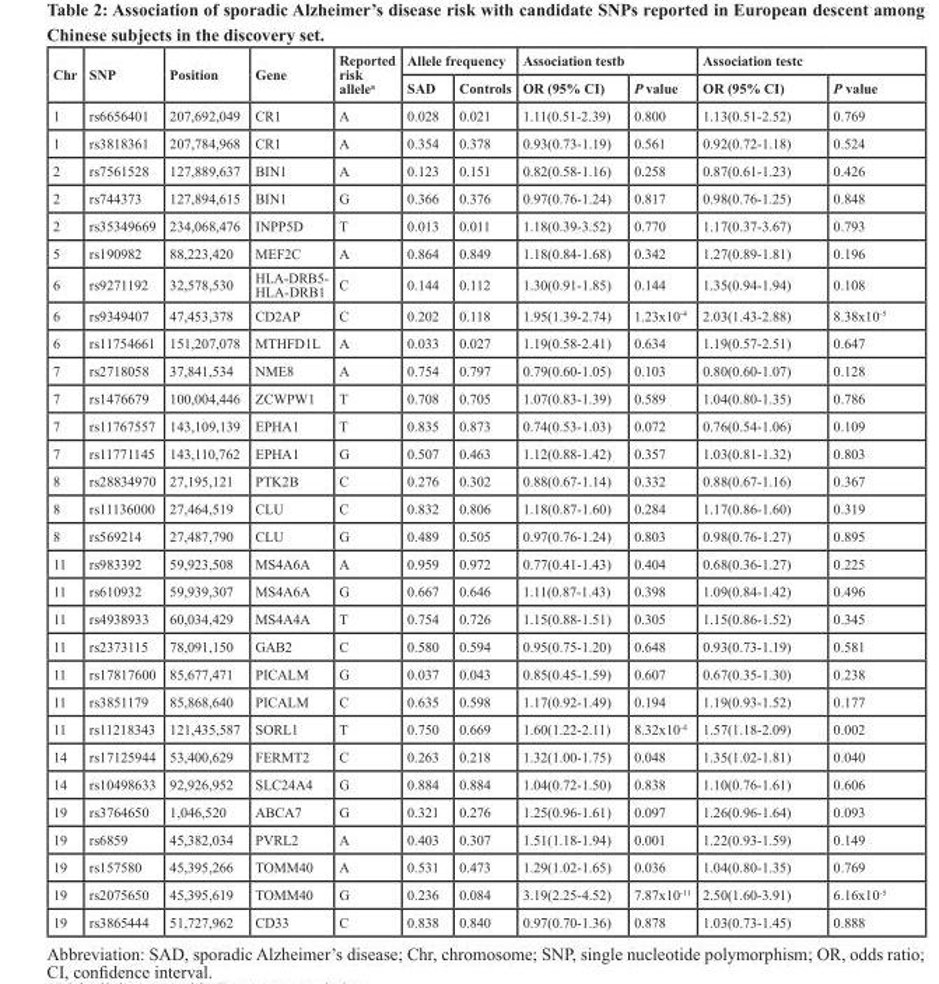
<table><thead><tr><td rowspan="2">Chr</td><td rowspan="2">SNP</td><td rowspan="2">Position</td><td rowspan="2">Gene</td><td rowspan="2">Reported risk allele<sup>a</sup></td><td colspan="2">Allele frequency</td><td colspan="2">Association test<sup>b</sup></td><td colspan="2">Association test<sup>c</sup></td></tr><tr><td>SAD</td><td>Controls</td><td>OR (95% CI)</td><td>P value</td><td>OR (95% CI)</td><td>P value</td></tr></thead><tbody><tr><td>1</td><td>rs6656401</td><td>207,692,049</td><td>CR1</td><td>A</td><td>0.028</td><td>0.021</td><td>1.11(0.51-2.39)</td><td>0.800</td><td>1.13(0.51-2.52)</td><td>0.769</td></tr><tr><td>1</td><td>rs3818361</td><td>207,784,968</td><td>CR1</td><td>A</td><td>0.354</td><td>0.378</td><td>0.93(0.73-1.19)</td><td>0.561</td><td>0.92(0.72-1.18)</td><td>0.524</td></tr><tr><td>2</td><td>rs7561528</td><td>127,889,637</td><td>BIN1</td><td>A</td><td>0.123</td><td>0.151</td><td>0.82(0.58-1.16)</td><td>0.258</td><td>0.87(0.61-1.23)</td><td>0.426</td></tr><tr><td>2</td><td>rs744373</td><td>127,894,615</td><td>BIN1</td><td>G</td><td>0.366</td><td>0.376</td><td>0.97(0.76-1.24)</td><td>0.817</td><td>0.98(0.76-1.25)</td><td>0.848</td></tr><tr><td>2</td><td>rs35349669</td><td>234,068,476</td><td>INPP5D</td><td>T</td><td>0.013</td><td>0.011</td><td>1.18(0.39-3.52)</td><td>0.770</td><td>1.17(0.37-3.67)</td><td>0.793</td></tr><tr><td>5</td><td>rs190982</td><td>88,223,420</td><td>MEF2C</td><td>A</td><td>0.864</td><td>0.849</td><td>1.18(0.84-1.68)</td><td>0.342</td><td>1.27(0.89-1.81)</td><td>0.196</td></tr><tr><td>6</td><td>rs9271192</td><td>32,578,530</td><td>HLA-DRB5- HLA-DRB1</td><td>C</td><td>0.144</td><td>0.112</td><td>1.30(0.91-1.85)</td><td>0.144</td><td>1.35(0.94-1.94)</td><td>0.108</td></tr><tr><td>6</td><td>rs9349407</td><td>47,453,378</td><td>CD2AP</td><td>C</td><td>0.202</td><td>0.118</td><td>1.95(1.39-2.74)</td><td>1.23x10-4</td><td>2.03(1.43-2.88)</td><td>8.38x10-5</td></tr><tr><td>6</td><td>rs11754661</td><td>151,207,078</td><td>MTHFD1L</td><td>A</td><td>0.033</td><td>0.027</td><td>1.19(0.58-2.41)</td><td>0.634</td><td>1.19(0.57-2.51)</td><td>0.647</td></tr><tr><td>7</td><td>rs2718058</td><td>37,841,534</td><td>NME8</td><td>A</td><td>0.754</td><td>0.797</td><td>0.79(0.60-1.05)</td><td>0.103</td><td>0.80(0.60-1.07)</td><td>0.128</td></tr><tr><td>7</td><td>rs1476679</td><td>100,004,446</td><td>ZCWPW1</td><td>T</td><td>0.708</td><td>0.705</td><td>1.07(0.83-1.39)</td><td>0.589</td><td>1.04(0.80-1.35)</td><td>0.786</td></tr><tr><td>7</td><td>rs11767557</td><td>143,109,139</td><td>EPHA1</td><td>T</td><td>0.835</td><td>0.873</td><td>0.74(0.53-1.03)</td><td>0.072</td><td>0.76(0.54-1.06)</td><td>0.109</td></tr><tr><td>7</td><td>rs11771145</td><td>143,110,762</td><td>EPHA1</td><td>G</td><td>0.507</td><td>0.463</td><td>1.12(0.88-1.42)</td><td>0.357</td><td>1.03(0.81-1.32)</td><td>0.803</td></tr><tr><td>8</td><td>rs28834970</td><td>27,195,121</td><td>PTK2B</td><td>C</td><td>0.276</td><td>0.302</td><td>0.88(0.67-1.14)</td><td>0.332</td><td>0.88(0.67-1.16)</td><td>0.367</td></tr><tr><td>8</td><td>rs11136000</td><td>27,464,519</td><td>CLU</td><td>C</td><td>0.832</td><td>0.806</td><td>1.18(0.87-1.60)</td><td>0.284</td><td>1.17(0.86-1.60)</td><td>0.319</td></tr><tr><td>8</td><td>rs569214</td><td>27,487,790</td><td>CLU</td><td>G</td><td>0.489</td><td>0.505</td><td>0.97(0.76-1.24)</td><td>0.803</td><td>0.98(0.76-1.27)</td><td>0.895</td></tr><tr><td>11</td><td>rs983392</td><td>59,923,508</td><td>MS4A6A</td><td>A</td><td>0.959</td><td>0.972</td><td>0.77(0.41-1.43)</td><td>0.404</td><td>0.68(0.36-1.27)</td><td>0.225</td></tr><tr><td>11</td><td>rs610932</td><td>59,939,307</td><td>MS4A6A</td><td>G</td><td>0.667</td><td>0.646</td><td>1.11(0.87-1.43)</td><td>0.398</td><td>1.09(0.84-1.42)</td><td>0.496</td></tr><tr><td>11</td><td>rs4938933</td><td>60,034,429</td><td>MS4A4A</td><td>T</td><td>0.754</td><td>0.726</td><td>1.15(0.88-1.51)</td><td>0.305</td><td>1.15(0.86-1.52)</td><td>0.345</td></tr><tr><td>11</td><td>rs2373115</td><td>78,091,150</td><td>GAB2</td><td>C</td><td>0.580</td><td>0.594</td><td>0.95(0.75-1.20)</td><td>0.648</td><td>0.93(0.73-1.19)</td><td>0.581</td></tr><tr><td>11</td><td>rs17817600</td><td>85,677,471</td><td>PICALM</td><td>G</td><td>0.037</td><td>0.043</td><td>0.85(0.45-1.59)</td><td>0.607</td><td>0.67(0.35-1.30)</td><td>0.238</td></tr><tr><td>11</td><td>rs3851179</td><td>85,868,640</td><td>PICALM</td><td>C</td><td>0.635</td><td>0.598</td><td>1.17(0.92-1.49)</td><td>0.194</td><td>1.19(0.93-1.52)</td><td>0.177</td></tr><tr><td>11</td><td>rs11218343</td><td>121,435,587</td><td>SORL1</td><td>T</td><td>0.750</td><td>0.669</td><td>1.60(1.22-2.11)</td><td>8.32x10-4</td><td>1.57(1.18-2.09)</td><td>0.002</td></tr><tr><td>14</td><td>rs17125944</td><td>53,400,629</td><td>FERMT2</td><td>C</td><td>0.263</td><td>0.218</td><td>1.32(1.00-1.75)</td><td>0.048</td><td>1.35(1.02-1.81)</td><td>0.040</td></tr><tr><td>14</td><td>rs10498633</td><td>92,926,952</td><td>SLC24A4</td><td>G</td><td>0.884</td><td>0.884</td><td>1.04(0.72-1.50)</td><td>0.838</td><td>1.10(0.76-1.61)</td><td>0.606</td></tr><tr><td>19</td><td>rs3764650</td><td>1,046,520</td><td>ABCA7</td><td>G</td><td>0.321</td><td>0.276</td><td>1.25(0.96-1.61)</td><td>0.097</td><td>1.26(0.96-1.64)</td><td>0.093</td></tr><tr><td>19</td><td>rs6859</td><td>45,382,034</td><td>PVRL2</td><td>A</td><td>0.403</td><td>0.307</td><td>1.51(1.18-1.94)</td><td>0.001</td><td>1.22(0.93-1.59)</td><td>0.149</td></tr><tr><td>19</td><td>rs157580</td><td>45,395,266</td><td>TOMM40</td><td>A</td><td>0.531</td><td>0.473</td><td>1.29(1.02-1.65)</td><td>0.036</td><td>1.04(0.80-1.35)</td><td>0.769</td></tr><tr><td>19</td><td>rs2075650</td><td>45,395,619</td><td>TOMM40</td><td>G</td><td>0.236</td><td>0.084</td><td>3.19(2.25-4.52)</td><td>7.87x10-11</td><td>2.50(1.60-3.91)</td><td>6.16x10-5</td></tr><tr><td>19</td><td>rs3865444</td><td>51,727,962</td><td>CD33</td><td>C</td><td>0.838</td><td>0.840</td><td>0.97(0.70-1.36)</td><td>0.878</td><td>1.03(0.73-1.45)</td><td>0.888</td></tr></tbody></table>